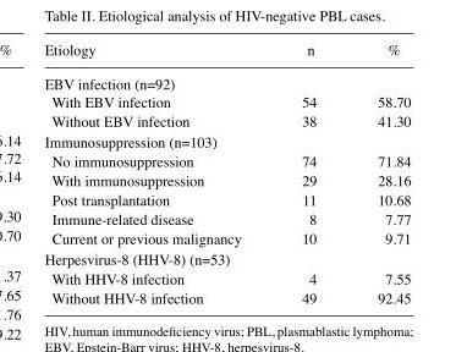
<table><thead><tr><td>Etiology</td><td>n</td><td>%</td></tr></thead><tbody><tr><td colspan="3">EBV infection (n=92)</td></tr><tr><td>With EBV infection</td><td>54</td><td>58.70</td></tr><tr><td>Without EBV infection</td><td>38</td><td>41.30</td></tr><tr><td colspan="3">Immunosuppression (n=103)</td></tr><tr><td>no immunosuppression</td><td>74</td><td>71.84</td></tr><tr><td>With immunosuppression</td><td>29</td><td>28.16</td></tr><tr><td>Post transplantation</td><td>11</td><td>10.68</td></tr><tr><td>Immune-related disease</td><td>8</td><td>7.77</td></tr><tr><td>Current or previous malignancy</td><td>10</td><td>9.71</td></tr><tr><td colspan="3">Herpesvirus-8 (HHV-8) (n=53)</td></tr><tr><td>With HHV-8 infection</td><td>4</td><td>7.55</td></tr><tr><td>Without HHV-8 infection</td><td>49</td><td>92.45</td></tr></tbody></table>